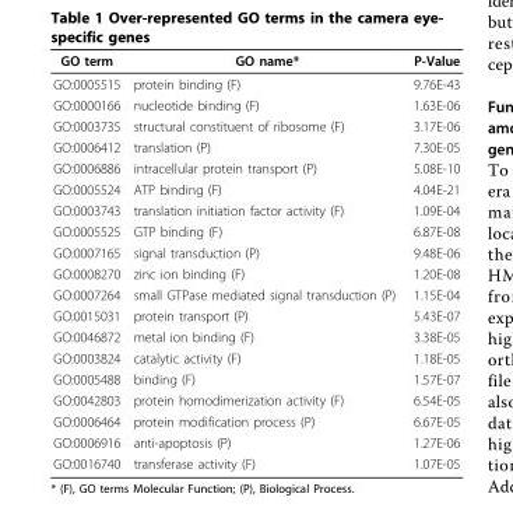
<table><thead><tr><td>GO term</td><td>GO name*</td><td>P-Value</td></tr></thead><tbody><tr><td>GO:0005515</td><td>protein binding (F)</td><td>9.76E-43</td></tr><tr><td>GO:0000166</td><td>nucleotide binding (F)</td><td>1.63E-06</td></tr><tr><td>GO:0003735</td><td>structural constituent of ribosome (F)</td><td>3.17E-06</td></tr><tr><td>GO:0006412</td><td>translation (P)</td><td>7.30E-05</td></tr><tr><td>GO:0006886</td><td>intracellular protein transport (P)</td><td>5.08E-10</td></tr><tr><td>GO:0005524</td><td>ATP binding (F)</td><td>4.04E-21</td></tr><tr><td>GO:0003743</td><td>translation initiation factor activity (F)</td><td>1.09E-04</td></tr><tr><td>GO:0005525</td><td>GTP binding (F)</td><td>6.87E-08</td></tr><tr><td>GO:0007165</td><td>signal transduction (P)</td><td>9.48E-06</td></tr><tr><td>GO:0008270</td><td>zinc ion binding (F)</td><td>1.20E-08</td></tr><tr><td>GO:0007264</td><td>small GTPase mediated signal transduction (P)</td><td>1.15E-04</td></tr><tr><td>GO:0015031</td><td>protein transport (P)</td><td>5.43E-07</td></tr><tr><td>GO:0046872</td><td>metal ion binding (F)</td><td>3.38E-05</td></tr><tr><td>GO:0003824</td><td>catalytic activity (F)</td><td>1.18E-05</td></tr><tr><td>GO:0005488</td><td>binding (F)</td><td>1.57E-07</td></tr><tr><td>GO:0042803</td><td>protein homodimerization activity (F)</td><td>6.54E-05</td></tr><tr><td>GO:0006464</td><td>protein modification process (P)</td><td>6.67E-05</td></tr><tr><td>GO:0006916</td><td>anti-apoptosis (P)</td><td>1.27E-06</td></tr><tr><td>GO:0016740</td><td>transferase activity (F)</td><td>1.07E-05</td></tr></tbody></table>